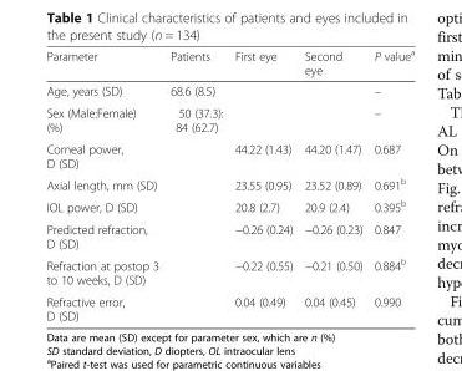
<table><thead><tr><td>Parameter</td><td>Patients</td><td>First eye</td><td>Second eye</td><td>P value<sup>a</sup></td></tr></thead><tbody><tr><td>Age, years (SD)</td><td>68.6 (8.5)</td><td></td><td></td><td>–</td></tr><tr><td>Sex (Male:Female) (%)</td><td>50 (37.3): 84 (62.7)</td><td></td><td></td><td>–</td></tr><tr><td>Corneal power, D (SD)</td><td></td><td>44.22 (1.43)</td><td>44.20 (1.47)</td><td>0.687</td></tr><tr><td>Axial length, mm (SD)</td><td></td><td>23.55 (0.95)</td><td>23.52 (0.89)</td><td>0.691<sup>b</sup></td></tr><tr><td>IOL power, D (SD)</td><td></td><td>20.8 (2.7)</td><td>20.9 (2.4)</td><td>0.395<sup>b</sup></td></tr><tr><td>Predicted refraction, D (SD)</td><td></td><td>−0.26 (0.24)</td><td>−0.26 (0.23)</td><td>0.847</td></tr><tr><td>Refraction at postop 3 to 10 weeks, D (SD)</td><td></td><td>−0.22 (0.55)</td><td>−0.21 (0.50)</td><td>0.884<sup>b</sup></td></tr><tr><td>Refractive error, D (SD)</td><td></td><td>0.04 (0.49)</td><td>0.04 (0.45)</td><td>0.990</td></tr></tbody></table>